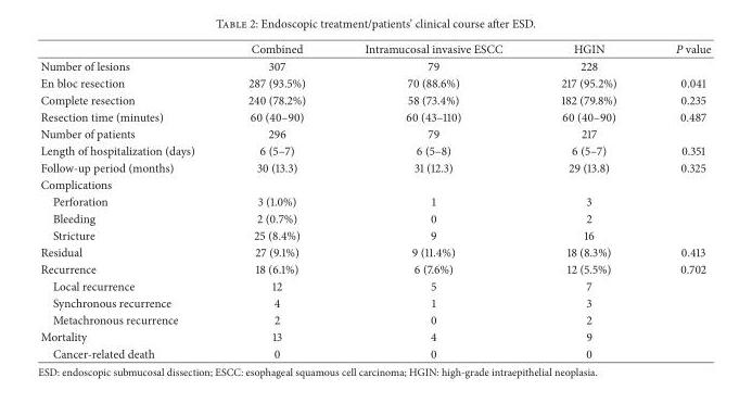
<table><thead><tr><td></td><td>Combined</td><td>Intramucosal invasive ESCC</td><td>HGIN</td><td>P value</td></tr></thead><tbody><tr><td>Number of lesions</td><td>307</td><td>79</td><td>228</td><td></td></tr><tr><td>En bloc resection</td><td>287 (93.5%)</td><td>70 (88.6%)</td><td>217 (95.2%)</td><td>0.041</td></tr><tr><td>Complete resection</td><td>240 (78.2%)</td><td>58 (73.4%)</td><td>182 (79.8%)</td><td>0.235</td></tr><tr><td>Resection time (minutes)</td><td>60 (40–90)</td><td>60 (43–110)</td><td>60 (40–90)</td><td>0.487</td></tr><tr><td>Number of patients</td><td>296</td><td>79</td><td>217</td><td></td></tr><tr><td>Length of hospitalization (days)</td><td>6 (5–7)</td><td>6 (5–8)</td><td>6 (5–7)</td><td>0.351</td></tr><tr><td>Follow-up period (months)</td><td>30 (13.3)</td><td>31 (12.3)</td><td>29 (13.8)</td><td>0.325</td></tr><tr><td colspan="5">Complications</td></tr><tr><td>Perforation</td><td>3 (1.0%)</td><td>1</td><td>3</td><td></td></tr><tr><td>Bleeding</td><td>2 (0.7%)</td><td>0</td><td>2</td><td></td></tr><tr><td>Stricture</td><td>25 (8.4%)</td><td>9</td><td>16</td><td></td></tr><tr><td>Residual</td><td>27 (9.1%)</td><td>9 (11.4%)</td><td>18 (8.3%)</td><td>0.413</td></tr><tr><td>Recurrence</td><td>18 (6.1%)</td><td>6 (7.6%)</td><td>12 (5.5%)</td><td>0.702</td></tr><tr><td>Local recurrence</td><td>12</td><td>5</td><td>7</td><td></td></tr><tr><td>Synchronous recurrence</td><td>4</td><td>1</td><td>3</td><td></td></tr><tr><td>Metachronous recurrence</td><td>2</td><td>0</td><td>2</td><td></td></tr><tr><td>Mortality</td><td>13</td><td>4</td><td>9</td><td></td></tr><tr><td>Cancer-related death</td><td>0</td><td>0</td><td>0</td><td></td></tr></tbody></table>